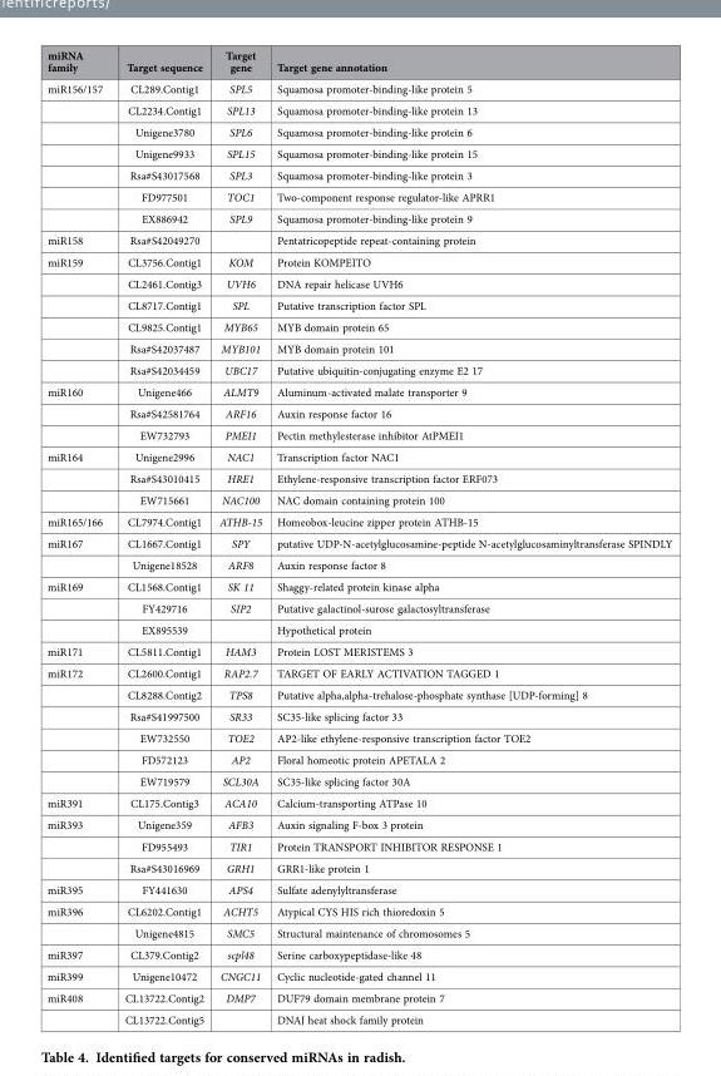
<table><thead><tr><td>miRNA family</td><td>Target sequence</td><td>Target gene</td><td>Target gene annotation</td></tr></thead><tbody><tr><td rowspan="7">miR156/157</td><td>CL289.Contig1</td><td>SPL5</td><td>Squamosa promoter-binding-like protein 5</td></tr><tr><td>CL2234.Contig1</td><td>SPL13</td><td>Squamosa promoter-binding-like protein 13</td></tr><tr><td>Unigene3780</td><td>SPL6</td><td>Squamosa promoter-binding-like protein 6</td></tr><tr><td>Unigene9933</td><td>SPL15</td><td>Squamosa promoter-binding-like protein 15</td></tr><tr><td>Rsa#S43017568</td><td>SPL3</td><td>Squamosa promoter-binding-like protein 3</td></tr><tr><td>FD977501</td><td>TOC1</td><td>Two-component response regulator-like APRR1</td></tr><tr><td>EX886942</td><td>SPL9</td><td>Squamosa promoter-binding-like protein 9</td></tr><tr><td>miR158</td><td>Rsa#S42049270</td><td></td><td>Pentatricopeptide repeat-containing protein</td></tr><tr><td rowspan="6">miR159</td><td>CL3756.Contig1</td><td>KOM</td><td>Protein KOMPEITO</td></tr><tr><td>CL2461.Contig3</td><td>UVH6</td><td>DNA repair helicase UVH6</td></tr><tr><td>CL8717.Contig1</td><td>SPL</td><td>Putative transcription factor SPL</td></tr><tr><td>CL9825.Contig1</td><td>MYB65</td><td>MYB domain protein 65</td></tr><tr><td>Rsa#S42037487</td><td>MYB101</td><td>MYB domain protein 101</td></tr><tr><td>Rsa#S42034459</td><td>UBC17</td><td>Putative ubiquitin-conjugating enzyme E2 17</td></tr><tr><td rowspan="3">miR160</td><td>Unigene466</td><td>ALMT9</td><td>Aluminum-activated malate transporter 9</td></tr><tr><td>Rsa#S42581764</td><td>ARF16</td><td>Auxin response factor 16</td></tr><tr><td>EW732793</td><td>PMEI1</td><td>Pectin methylesterase inhibitor AtPMEI1</td></tr><tr><td rowspan="3">miR164</td><td>Unigene2996</td><td>NAC1</td><td>Transcription factor NAC1</td></tr><tr><td>Rsa#S43010415</td><td>HRE1</td><td>Ethylene-responsive transcription factor ERF073</td></tr><tr><td>EW715661</td><td>NAC100</td><td>NAC domain containing protein 100</td></tr><tr><td>miR165/166</td><td>CL7974.Contig1</td><td>ATHB-15</td><td>Homeobox-leucine zipper protein ATHB-15</td></tr><tr><td rowspan="2">miR167</td><td>CL1667.Contig1</td><td>SPY</td><td>putative UDP-N-acetylglucosamine-peptide N-acetylglucosaminyltransferase SPINDLY</td></tr><tr><td>Unigene18528</td><td>ARF8</td><td>Auxin response factor 8</td></tr><tr><td rowspan="3">miR169</td><td>CL1568.Contig1</td><td>SK 11</td><td>Shaggy-related protein kinase alpha</td></tr><tr><td>FY429716</td><td>SIP2</td><td>Putative galactinol-surose galactosyltransferase</td></tr><tr><td>EX895539</td><td></td><td>Hypothetical protein</td></tr><tr><td>miR171</td><td>CL5811.Contig1</td><td>HAM3</td><td>Protein LOST MERISTEMS 3</td></tr><tr><td rowspan="6">miR172</td><td>CL2600.Contig1</td><td>RAP2.7</td><td>TARGET OF EARLY ACTIVATION TAGGED 1</td></tr><tr><td>CL8288.Contig2</td><td>TPS8</td><td>Putative alpha,alpha-trehalose-phosphate synthase [UDP-forming] 8</td></tr><tr><td>Rsa#S41997500</td><td>SR33</td><td>SC35-like splicing factor 33</td></tr><tr><td>EW732550</td><td>TOE2</td><td>AP2-like ethylene-responsive transcription factor TOE2</td></tr><tr><td>FD572123</td><td>AP2</td><td>Floral homeotic protein APETALA 2</td></tr><tr><td>EW719579</td><td>SCL30A</td><td>SC35-like splicing factor 30A</td></tr><tr><td>miR391</td><td>CL175.Contig3</td><td>ACA10</td><td>Calcium-transporting ATPase 10</td></tr><tr><td rowspan="3">miR393</td><td>Unigene359</td><td>AFB3</td><td>Auxin signaling F-box 3 protein</td></tr><tr><td>FD955493</td><td>TIR1</td><td>Protein TRANSPORT INHIBITOR RESPONSE 1</td></tr><tr><td>Rsa#S43016969</td><td>GRH1</td><td>GRR1-like protein 1</td></tr><tr><td>miR395</td><td>FY441630</td><td>APS4</td><td>Sulfate adenylyltransferase</td></tr><tr><td rowspan="2">miR396</td><td>CL6202.Contig1</td><td>ACHT5</td><td>Atypical CYS HIS rich thioredoxin 5</td></tr><tr><td>Unigene4815</td><td>SMC5</td><td>Structural maintenance of chromosomes 5</td></tr><tr><td>miR397</td><td>CL379.Contig2</td><td>scpl48</td><td>Serine carboxypeptidase-like 48</td></tr><tr><td>miR399</td><td>Unigene10472</td><td>CNGC11</td><td>Cyclic nucleotide-gated channel 11</td></tr><tr><td rowspan="2">miR408</td><td>CL13722.Contig2</td><td>DMP7</td><td>DUF79 domain membrane protein 7</td></tr><tr><td>CL13722.Contig5</td><td></td><td>DNAJ heat shock family protein</td></tr></tbody></table>